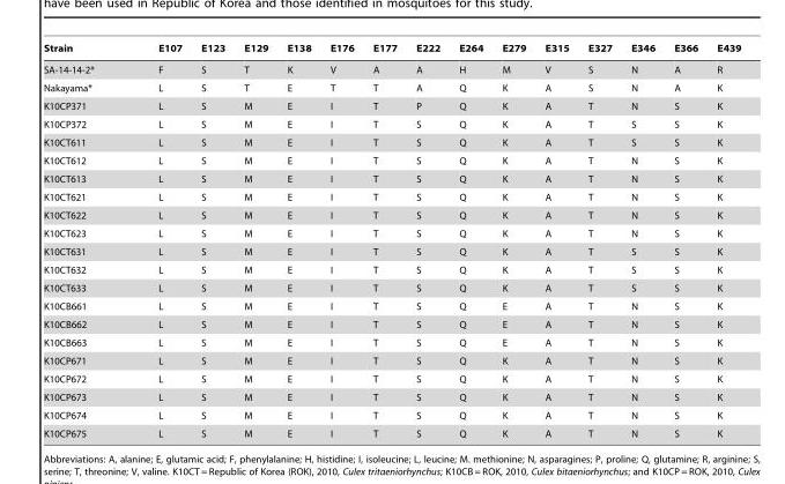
<table><thead><tr><td>Strain</td><td>E107</td><td>E123</td><td>E129</td><td>E138</td><td>E176</td><td>E177</td><td>E222</td><td>E264</td><td>E279</td><td>E315</td><td>E327</td><td>E346</td><td>E366</td><td>E439</td></tr></thead><tbody><tr><td>SA-14-14-2*</td><td>F</td><td>S</td><td>T</td><td>K</td><td>V</td><td>A</td><td>A</td><td>H</td><td>M</td><td>V</td><td>S</td><td>N</td><td>A</td><td>R</td></tr><tr><td>Nakayama*</td><td>L</td><td>S</td><td>T</td><td>E</td><td>T</td><td>T</td><td>A</td><td>Q</td><td>K</td><td>A</td><td>S</td><td>N</td><td>A</td><td>K</td></tr><tr><td>K10CP371</td><td>L</td><td>S</td><td>M</td><td>E</td><td>I</td><td>T</td><td>P</td><td>Q</td><td>K</td><td>A</td><td>T</td><td>N</td><td>S</td><td>K</td></tr><tr><td>K10CP372</td><td>L</td><td>S</td><td>M</td><td>E</td><td>I</td><td>T</td><td>S</td><td>Q</td><td>K</td><td>A</td><td>T</td><td>S</td><td>S</td><td>K</td></tr><tr><td>K10CT611</td><td>L</td><td>S</td><td>M</td><td>E</td><td>I</td><td>T</td><td>S</td><td>Q</td><td>K</td><td>A</td><td>T</td><td>S</td><td>S</td><td>K</td></tr><tr><td>K10CT612</td><td>L</td><td>S</td><td>M</td><td>E</td><td>I</td><td>T</td><td>S</td><td>Q</td><td>K</td><td>A</td><td>T</td><td>N</td><td>S</td><td>K</td></tr><tr><td>K10CT613</td><td>L</td><td>S</td><td>M</td><td>E</td><td>I</td><td>T</td><td>S</td><td>Q</td><td>K</td><td>A</td><td>T</td><td>N</td><td>S</td><td>K</td></tr><tr><td>K10CT621</td><td>L</td><td>S</td><td>M</td><td>E</td><td>I</td><td>T</td><td>S</td><td>Q</td><td>K</td><td>A</td><td>T</td><td>N</td><td>S</td><td>K</td></tr><tr><td>K10CT622</td><td>L</td><td>S</td><td>M</td><td>E</td><td>I</td><td>T</td><td>S</td><td>Q</td><td>K</td><td>A</td><td>T</td><td>N</td><td>S</td><td>K</td></tr><tr><td>K10CT623</td><td>L</td><td>S</td><td>M</td><td>E</td><td>I</td><td>T</td><td>S</td><td>Q</td><td>K</td><td>A</td><td>T</td><td>N</td><td>S</td><td>K</td></tr><tr><td>K10CT631</td><td>L</td><td>S</td><td>M</td><td>E</td><td>I</td><td>T</td><td>S</td><td>Q</td><td>K</td><td>A</td><td>T</td><td>S</td><td>S</td><td>K</td></tr><tr><td>K10CT632</td><td>L</td><td>S</td><td>M</td><td>E</td><td>I</td><td>T</td><td>S</td><td>Q</td><td>K</td><td>A</td><td>T</td><td>S</td><td>S</td><td>K</td></tr><tr><td>K10CT633</td><td>L</td><td>S</td><td>M</td><td>E</td><td>I</td><td>T</td><td>S</td><td>Q</td><td>K</td><td>A</td><td>T</td><td>S</td><td>S</td><td>K</td></tr><tr><td>K10CB661</td><td>L</td><td>S</td><td>M</td><td>E</td><td>I</td><td>T</td><td>S</td><td>Q</td><td>E</td><td>A</td><td>T</td><td>N</td><td>S</td><td>K</td></tr><tr><td>K10CB662</td><td>L</td><td>S</td><td>M</td><td>E</td><td>I</td><td>T</td><td>S</td><td>Q</td><td>E</td><td>A</td><td>T</td><td>N</td><td>S</td><td>K</td></tr><tr><td>K10CB663</td><td>L</td><td>S</td><td>M</td><td>E</td><td>I</td><td>T</td><td>S</td><td>Q</td><td>E</td><td>A</td><td>T</td><td>N</td><td>S</td><td>K</td></tr><tr><td>K10CP671</td><td>L</td><td>S</td><td>M</td><td>E</td><td>I</td><td>T</td><td>S</td><td>Q</td><td>K</td><td>A</td><td>T</td><td>N</td><td>S</td><td>K</td></tr><tr><td>K10CP672</td><td>L</td><td>S</td><td>M</td><td>E</td><td>I</td><td>T</td><td>S</td><td>Q</td><td>K</td><td>A</td><td>T</td><td>N</td><td>S</td><td>K</td></tr><tr><td>K10CP673</td><td>L</td><td>S</td><td>M</td><td>E</td><td>I</td><td>T</td><td>S</td><td>Q</td><td>K</td><td>A</td><td>T</td><td>N</td><td>S</td><td>K</td></tr><tr><td>K10CP674</td><td>L</td><td>S</td><td>M</td><td>E</td><td>I</td><td>T</td><td>S</td><td>Q</td><td>K</td><td>A</td><td>T</td><td>N</td><td>S</td><td>K</td></tr><tr><td>K10CP675</td><td>L</td><td>S</td><td>M</td><td>E</td><td>I</td><td>T</td><td>S</td><td>Q</td><td>K</td><td>A</td><td>T</td><td>N</td><td>S</td><td>K</td></tr></tbody></table>